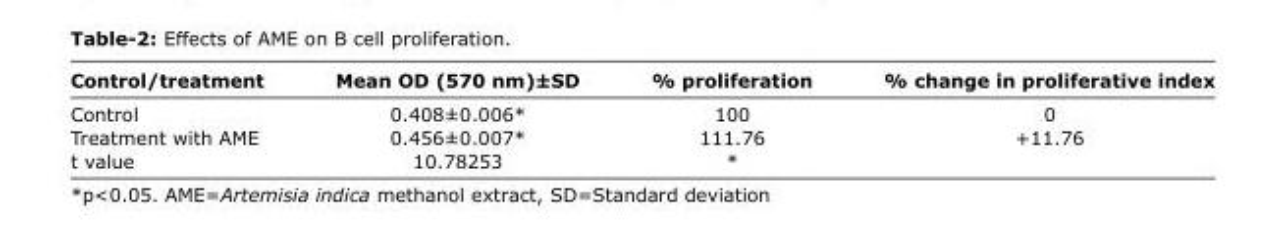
<table><thead><tr><td>Control/treatment</td><td>Mean OD (570 nm)±SD</td><td>% proliferation</td><td>% change in proliferative index</td></tr></thead><tbody><tr><td>Control</td><td>0.408±0.006*</td><td>100</td><td>0</td></tr><tr><td>Treatment with AME</td><td>0.456±0.007*</td><td>111.76</td><td>+11.76</td></tr><tr><td>t value</td><td>10.78253</td><td>*</td><td></td></tr></tbody></table>